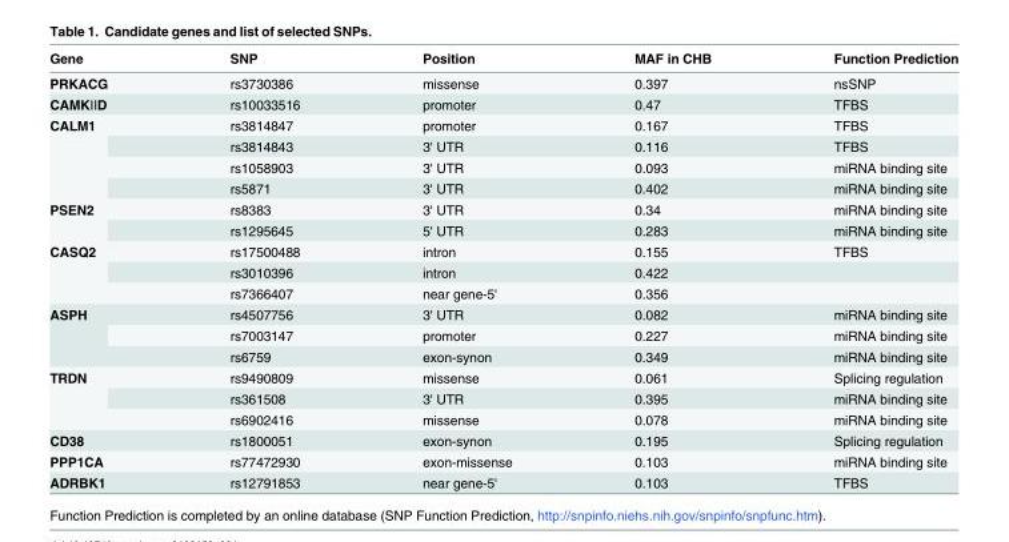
<table><thead><tr><td>Gene</td><td>SNP</td><td>Position</td><td>MAF in CHB</td><td>Function Prediction</td></tr></thead><tbody><tr><td>PRKACG</td><td>rs3730386</td><td>missense</td><td>0.397</td><td>nsSNP</td></tr><tr><td>CAMKⅡD</td><td>rs10033516</td><td>promoter</td><td>0.47</td><td>TFBS</td></tr><tr><td rowspan="4">CALM1</td><td>rs3814847</td><td>promoter</td><td>0.167</td><td>TFBS</td></tr><tr><td>rs3814843</td><td>3&#x27; UTR</td><td>0.116</td><td>TFBS</td></tr><tr><td>rs1058903</td><td>3&#x27; UTR</td><td>0.093</td><td>miRNA binding site</td></tr><tr><td>rs5871</td><td>3&#x27; UTR</td><td>0.402</td><td>miRNA binding site</td></tr><tr><td rowspan="2">PSEN2</td><td>rs8383</td><td>3&#x27; UTR</td><td>0.34</td><td>miRNA binding site</td></tr><tr><td>rs1295645</td><td>5&#x27; UTR</td><td>0.283</td><td>miRNA binding site</td></tr><tr><td rowspan="3">CASQ2</td><td>rs17500488</td><td>intron</td><td>0.155</td><td>TFBS</td></tr><tr><td>rs3010396</td><td>intron</td><td>0.422</td><td></td></tr><tr><td>rs7366407</td><td>near gene-5&#x27;</td><td>0.356</td><td></td></tr><tr><td rowspan="3">ASPH</td><td>rs4507756</td><td>3&#x27; UTR</td><td>0.082</td><td>miRNA binding site</td></tr><tr><td>rs7003147</td><td>promoter</td><td>0.227</td><td>miRNA binding site</td></tr><tr><td>rs6759</td><td>exon-synon</td><td>0.349</td><td>miRNA binding site</td></tr><tr><td rowspan="3">TRDN</td><td>rs9490809</td><td>missense</td><td>0.061</td><td>Splicing regulation</td></tr><tr><td>rs361508</td><td>3&#x27; UTR</td><td>0.395</td><td>miRNA binding site</td></tr><tr><td>rs6902416</td><td>missense</td><td>0.078</td><td>miRNA binding site</td></tr><tr><td>CD38</td><td>rs1800051</td><td>exon-synon</td><td>0.195</td><td>Splicing regulation</td></tr><tr><td>PPP1CA</td><td>rs77472930</td><td>exon-missense</td><td>0.103</td><td>miRNA binding site</td></tr><tr><td>ADRBK1</td><td>rs12791853</td><td>near gene-5&#x27;</td><td>0.103</td><td>TFBS</td></tr></tbody></table>